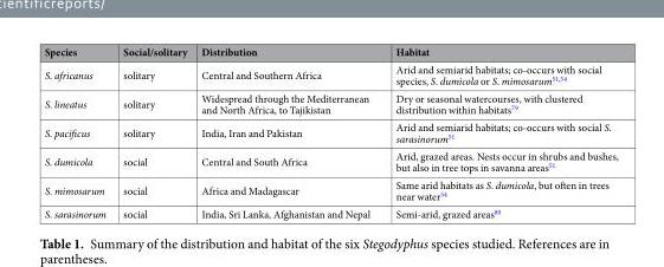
<table><thead><tr><td>Species</td><td>Social/solitary</td><td>Distribution</td><td>Habitat</td></tr></thead><tbody><tr><td>S. africanus</td><td>solitary</td><td>Central and Southern Africa</td><td>Arid and semiarid habitats; co-occurs with social species, S. dumicola or S. mimosarum<sup>51,54</sup></td></tr><tr><td>S. lineatus</td><td>solitary</td><td>Widespread through the Mediterranean and North Africa, to Tajikistan</td><td>Dry or seasonal watercourses, with clustered distribution within habitats<sup>79</sup></td></tr><tr><td>S. pacificus</td><td>solitary</td><td>India, Iran and Pakistan</td><td>Arid and semiarid habitats; co-occurs with social S. sarasinorum<sup>51</sup></td></tr><tr><td>S. dumicola</td><td>social</td><td>Central and South Africa</td><td>Arid, grazed areas. Nests occur in shrubs and bushes, but also in tree tops in savanna areas<sup>51</sup></td></tr><tr><td>S. mimosarum</td><td>social</td><td>Africa and Madagascar</td><td>Same arid habitats as S. dumicola, but often in trees near water<sup>54</sup></td></tr><tr><td>S. sarasinorum</td><td>social</td><td>India, Sri Lanka, Afghanistan and Nepal</td><td>Semi-arid, grazed areas<sup>80</sup></td></tr></tbody></table>